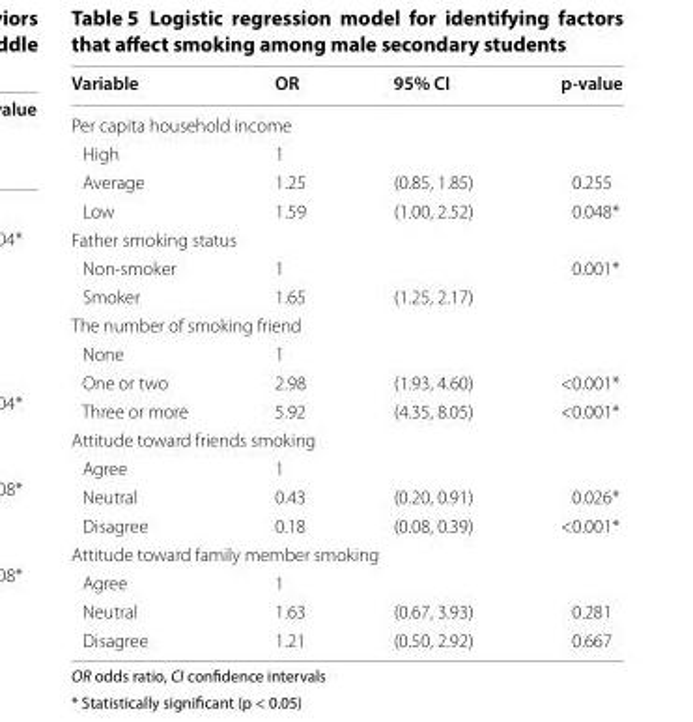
<table><thead><tr><td>Variable</td><td>OR</td><td>95% CI</td><td>p‑value</td></tr></thead><tbody><tr><td colspan="4">Per capita household income</td></tr><tr><td>High</td><td>1</td><td></td><td></td></tr><tr><td>Average</td><td>1.25</td><td>(0.85, 1.85)</td><td>0.255</td></tr><tr><td>Low</td><td>1.59</td><td>(1.00, 2.52)</td><td>0.048*</td></tr><tr><td colspan="4">Father smoking status</td></tr><tr><td>Non-smoker</td><td>1</td><td></td><td>0.001*</td></tr><tr><td>Smoker</td><td>1.65</td><td>(1.25, 2.17)</td><td></td></tr><tr><td colspan="4">The number of smoking friend</td></tr><tr><td>None</td><td>1</td><td></td><td></td></tr><tr><td>One or two</td><td>2.98</td><td>(1.93, 4.60)</td><td>&lt;0.001*</td></tr><tr><td>Three or more</td><td>5.92</td><td>(4.35, 8.05)</td><td>&lt;0.001*</td></tr><tr><td colspan="4">Attitude toward friends smoking</td></tr><tr><td>Agree</td><td>1</td><td></td><td></td></tr><tr><td>Neutral</td><td>0.43</td><td>(0.20, 0.91)</td><td>0.026*</td></tr><tr><td>Disagree</td><td>0.18</td><td>(0.08, 0.39)</td><td>&lt;0.001*</td></tr><tr><td colspan="4">Attitude toward family member smoking</td></tr><tr><td>Agree</td><td>1</td><td></td><td></td></tr><tr><td>Neutral</td><td>1.63</td><td>(0.67, 3.93)</td><td>0.281</td></tr><tr><td>Disagree</td><td>1.21</td><td>(0.50, 2.92)</td><td>0.667</td></tr></tbody></table>